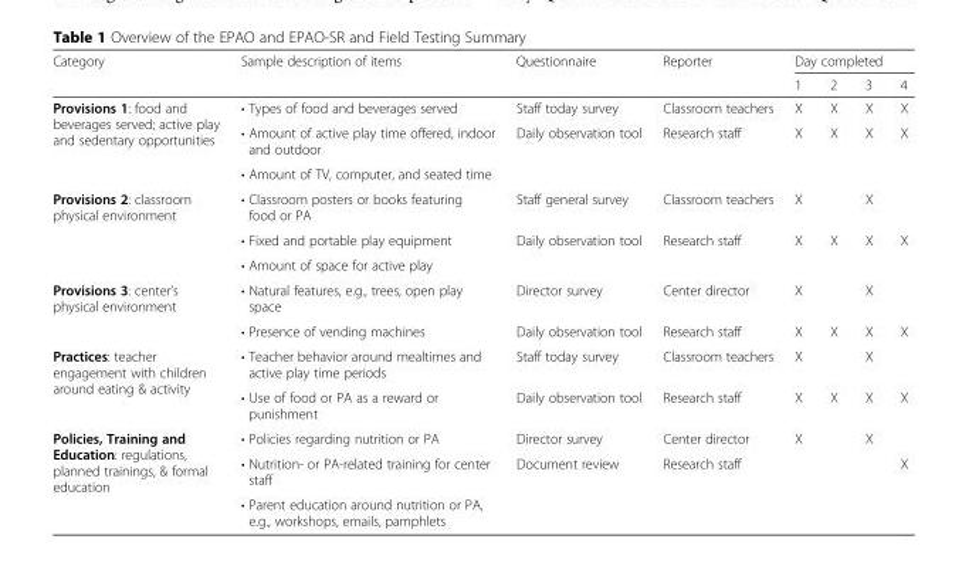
<table><thead><tr><td rowspan="2">Category</td><td rowspan="2">Sample description of items</td><td rowspan="2">Questionnaire</td><td rowspan="2">Reporter</td><td colspan="4">Day completed</td></tr><tr><td>1</td><td>2</td><td>3</td><td>4</td></tr></thead><tbody><tr><td rowspan="3">Provisions 1: food and beverages served; active play and sedentary opportunities</td><td>• Types of food and beverages served</td><td>Staff today survey</td><td>Classroom teachers</td><td>X</td><td>X</td><td>X</td><td>X</td></tr><tr><td>• Amount of active play time offered, indoor and outdoor</td><td rowspan="2">Daily observation tool</td><td rowspan="2">Research staff</td><td rowspan="2">X</td><td rowspan="2">X</td><td rowspan="2">X</td><td rowspan="2">X</td></tr><tr><td>• Amount of TV, computer, and seated time</td></tr><tr><td rowspan="3">Provisions 2: classroom physical environment</td><td>• Classroom posters or books featuring food or PA</td><td>Staff general survey</td><td>Classroom teachers</td><td>X</td><td></td><td>X</td><td></td></tr><tr><td>• Fixed and portable play equipment</td><td rowspan="2">Daily observation tool</td><td rowspan="2">Research staff</td><td rowspan="2">X</td><td rowspan="2">X</td><td rowspan="2">X</td><td rowspan="2">X</td></tr><tr><td>• Amount of space for active play</td></tr><tr><td rowspan="2">Provisions 3: center’s physical environment</td><td>• Natural features, e.g., trees, open play space</td><td>Director survey</td><td>Center director</td><td>X</td><td></td><td>X</td><td></td></tr><tr><td>• Presence of vending machines</td><td>Daily observation tool</td><td>Research staff</td><td>X</td><td>X</td><td>X</td><td>X</td></tr><tr><td rowspan="2">Practices: teacher engagement with children around eating &amp; activity</td><td>• Teacher behavior around mealtimes and active play time periods</td><td>Staff today survey</td><td>Classroom teachers</td><td>X</td><td></td><td>X</td><td></td></tr><tr><td>• Use of food or PA as a reward or punishment</td><td>Daily observation tool</td><td>Research staff</td><td>X</td><td>X</td><td>X</td><td>X</td></tr><tr><td rowspan="3">Policies, Training and Education: regulations, planned trainings, &amp; formal education</td><td>• Policies regarding nutrition or PA</td><td>Director survey</td><td>Center director</td><td>X</td><td></td><td>X</td><td></td></tr><tr><td>• Nutrition- or PA-related training for center staff</td><td rowspan="2">Document review</td><td rowspan="2">Research staff</td><td rowspan="2"></td><td rowspan="2"></td><td rowspan="2"></td><td rowspan="2">X</td></tr><tr><td>• Parent education around nutrition or PA, e.g., workshops, emails, pamphlets</td></tr></tbody></table>